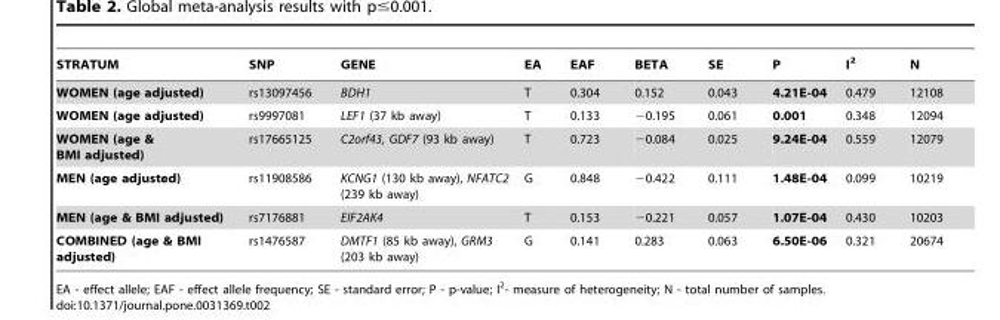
<table><thead><tr><td>STRATUM</td><td>SNP</td><td>GENE</td><td>EA</td><td>EAF</td><td>BETA</td><td>SE</td><td>P</td><td>I<sup>2</sup></td><td>N</td></tr></thead><tbody><tr><td>WOMEN (age adjusted)</td><td>rs13097456</td><td>BDH1</td><td>T</td><td>0.304</td><td>0.152</td><td>0.043</td><td>4.21E-04</td><td>0.479</td><td>12108</td></tr><tr><td>WOMEN (age adjusted)</td><td>rs9997081</td><td>LEF1 (37 kb away)</td><td>T</td><td>0.133</td><td>−0.195</td><td>0.061</td><td>0.001</td><td>0.348</td><td>12094</td></tr><tr><td>WOMEN (age &amp; BMI adjusted)</td><td>rs17665125</td><td>C2orf43, GDF7 (93 kb away)</td><td>T</td><td>0.723</td><td>−0.084</td><td>0.025</td><td>9.24E-04</td><td>0.559</td><td>12079</td></tr><tr><td>MEN (age adjusted)</td><td>rs11908586</td><td>KCNG1 (130 kb away), NFATC2 (239 kb away)</td><td>G</td><td>0.848</td><td>−0.422</td><td>0.111</td><td>1.48E-04</td><td>0.099</td><td>10219</td></tr><tr><td>MEN (age &amp; BMI adjusted)</td><td>rs7176881</td><td>EIF2AK4</td><td>T</td><td>0.153</td><td>−0.221</td><td>0.057</td><td>1.07E-04</td><td>0.430</td><td>10203</td></tr><tr><td>COMBINED (age &amp; BMI adjusted)</td><td>rs1476587</td><td>DMTF1 (85 kb away), GRM3 (203 kb away)</td><td>G</td><td>0.141</td><td>0.283</td><td>0.063</td><td>6.50E-06</td><td>0.321</td><td>20674</td></tr></tbody></table>